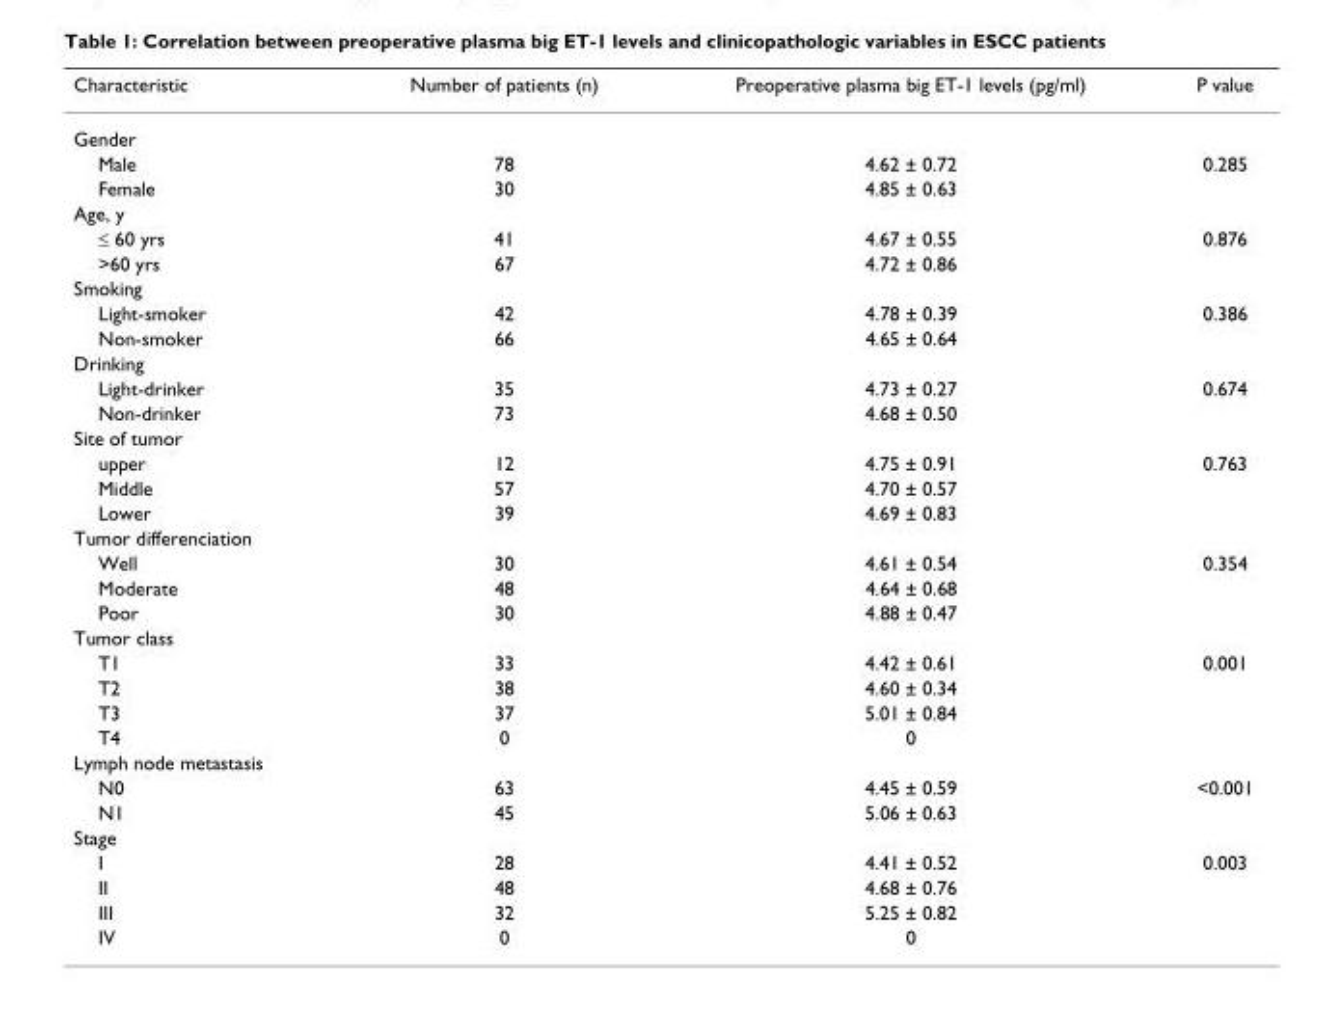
<table><thead><tr><td>Characteristic</td><td>Number of patients (n)</td><td>Preoperative plasma big ET-1 levels (pg/ml)</td><td>P value</td></tr></thead><tbody><tr><td colspan="4">Gender</td></tr><tr><td>Male</td><td>78</td><td>4.62 ± 0.72</td><td>0.285</td></tr><tr><td>Female</td><td>30</td><td>4.85 ± 0.63</td><td></td></tr><tr><td colspan="4">Age, y</td></tr><tr><td>≤ 60 yrs</td><td>41</td><td>4.67 ± 0.55</td><td>0.876</td></tr><tr><td>&gt;60 yrs</td><td>67</td><td>4.72 ± 0.86</td><td></td></tr><tr><td colspan="4">Smoking</td></tr><tr><td>Light-smoker</td><td>42</td><td>4.78 ± 0.39</td><td>0.386</td></tr><tr><td>Non-smoker</td><td>66</td><td>4.65 ± 0.64</td><td></td></tr><tr><td colspan="4">Drinking</td></tr><tr><td>Light-drinker</td><td>35</td><td>4.73 ± 0.27</td><td>0.674</td></tr><tr><td>Non-drinker</td><td>73</td><td>4.68 ± 0.50</td><td></td></tr><tr><td colspan="4">Site of tumor</td></tr><tr><td>upper</td><td>12</td><td>4.75 ± 0.91</td><td>0.763</td></tr><tr><td>Middle</td><td>57</td><td>4.70 ± 0.57</td><td></td></tr><tr><td>Lower</td><td>39</td><td>4.69 ± 0.83</td><td></td></tr><tr><td colspan="4">Tumor differenciation</td></tr><tr><td>Well</td><td>30</td><td>4.61 ± 0.54</td><td>0.354</td></tr><tr><td>Moderate</td><td>48</td><td>4.64 ± 0.68</td><td></td></tr><tr><td>Poor</td><td>30</td><td>4.88 ± 0.47</td><td></td></tr><tr><td colspan="4">Tumor class</td></tr><tr><td>T1</td><td>33</td><td>4.42 ± 0.61</td><td>0.001</td></tr><tr><td>T2</td><td>38</td><td>4.60 ± 0.34</td><td></td></tr><tr><td>T3</td><td>37</td><td>5.01 ± 0.84</td><td></td></tr><tr><td>T4</td><td>0</td><td>0</td><td></td></tr><tr><td colspan="4">Lymph node metastasis</td></tr><tr><td>N0</td><td>63</td><td>4.45 ± 0.59</td><td>&lt;0.001</td></tr><tr><td>N1</td><td>45</td><td>5.06 ± 0.63</td><td></td></tr><tr><td colspan="4">Stage</td></tr><tr><td>I</td><td>28</td><td>4.41 ± 0.52</td><td>0.003</td></tr><tr><td>II</td><td>48</td><td>4.68 ± 0.76</td><td></td></tr><tr><td>III</td><td>32</td><td>5.25 ± 0.82</td><td></td></tr><tr><td>IV</td><td>0</td><td>0</td><td></td></tr></tbody></table>